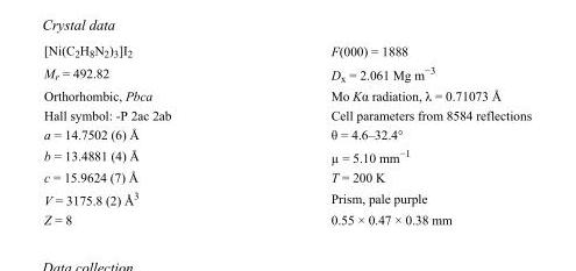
<table><tbody><tr><td>[Ni(C<sub>2</sub>H<sub>8</sub>N<sub>2</sub>)<sub>3</sub>]I<sub>2</sub></td><td>F(000) = 1888</td></tr><tr><td>M<sub>r</sub> = 492.82</td><td>D<sub>x</sub> = 2.061 Mg m<sup>−3</sup></td></tr><tr><td>Orthorhombic, Pbca</td><td>Mo Kα radiation, λ = 0.71073 Å</td></tr><tr><td>Hall symbol: -P 2ac 2ab</td><td>Cell parameters from 8584 reflections</td></tr><tr><td>a = 14.7502 (6) Å</td><td>θ = 4.6–32.4°</td></tr><tr><td>b = 13.4881 (4) Å</td><td>µ = 5.10 mm<sup>−1</sup></td></tr><tr><td>c = 15.9624 (7) Å</td><td>T = 200 K</td></tr><tr><td>V = 3175.8 (2) Å<sup>3</sup></td><td>Prism, pale purple</td></tr><tr><td>Z = 8</td><td>0.55 × 0.47 × 0.38 mm</td></tr></tbody></table>